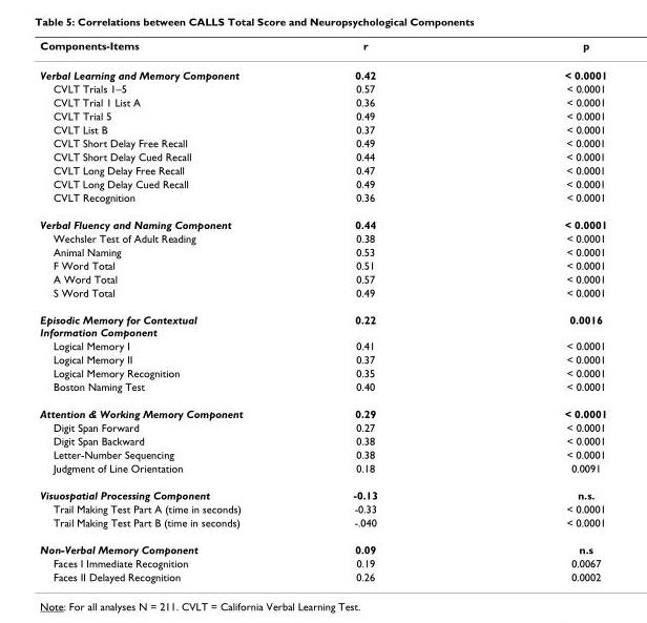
<table><thead><tr><td>Components-Items</td><td>r</td><td>p</td></tr></thead><tbody><tr><td>Verbal Learning and Memory Component</td><td>0.42</td><td>&lt; 0.0001</td></tr><tr><td>CVLT Trials 1–5</td><td>0.57</td><td>&lt; 0.0001</td></tr><tr><td>CVLT Trial 1 List A</td><td>0.36</td><td>&lt; 0.0001</td></tr><tr><td>CVLT Trial 5</td><td>0.49</td><td>&lt; 0.0001</td></tr><tr><td>CVLT List B</td><td>0.37</td><td>&lt; 0.0001</td></tr><tr><td>CVLT Short Delay Free Recall</td><td>0.49</td><td>&lt; 0.0001</td></tr><tr><td>CVLT Short Delay Cued Recall</td><td>0.44</td><td>&lt; 0.0001</td></tr><tr><td>CVLT Long Delay Free Recall</td><td>0.47</td><td>&lt; 0.0001</td></tr><tr><td>CVLT Long Delay Cued Recall</td><td>0.49</td><td>&lt; 0.0001</td></tr><tr><td>CVLT Recognition</td><td>0.36</td><td>&lt; 0.0001</td></tr><tr><td>Verbal Fluency and Naming Component</td><td>0.44</td><td>&lt; 0.0001</td></tr><tr><td>Wechsler Test of Adult Reading</td><td>0.38</td><td>&lt; 0.0001</td></tr><tr><td>Animal Naming</td><td>0.53</td><td>&lt; 0.0001</td></tr><tr><td>F Word Total</td><td>0.51</td><td>&lt; 0.0001</td></tr><tr><td>A Word Total</td><td>0.57</td><td>&lt; 0.0001</td></tr><tr><td>S Word Total</td><td>0.49</td><td>&lt; 0.0001</td></tr><tr><td>Episodic Memory for Contextual Information Component</td><td>0.22</td><td>0.0016</td></tr><tr><td>Logical Memory I</td><td>0.41</td><td>&lt; 0.0001</td></tr><tr><td>Logical Memory II</td><td>0.37</td><td>&lt; 0.0001</td></tr><tr><td>Logical Memory Recognition</td><td>0.35</td><td>&lt; 0.0001</td></tr><tr><td>Boston Naming Test</td><td>0.40</td><td>&lt; 0.0001</td></tr><tr><td>Attention &amp; Working Memory Component</td><td>0.29</td><td>&lt; 0.0001</td></tr><tr><td>Digit Span Forward</td><td>0.27</td><td>&lt; 0.0001</td></tr><tr><td>Digit Span Backward</td><td>0.38</td><td>&lt; 0.0001</td></tr><tr><td>Letter-Number Sequencing</td><td>0.38</td><td>&lt; 0.0001</td></tr><tr><td>Judgment of Line Orientation</td><td>0.18</td><td>0.0091</td></tr><tr><td>Visuospatial Processing Component</td><td>-0.13</td><td>n.s.</td></tr><tr><td>Trail Making Test Part A (time in seconds)</td><td>-0.33</td><td>&lt; 0.0001</td></tr><tr><td>Trail Making Test Part B (time in seconds)</td><td>-.040</td><td>&lt; 0.0001</td></tr><tr><td>Non-Verbal Memory Component</td><td>0.09</td><td>n.s</td></tr><tr><td>Faces I Immediate Recognition</td><td>0.19</td><td>0.0067</td></tr><tr><td>Faces II Delayed Recognition</td><td>0.26</td><td>0.0002</td></tr></tbody></table>